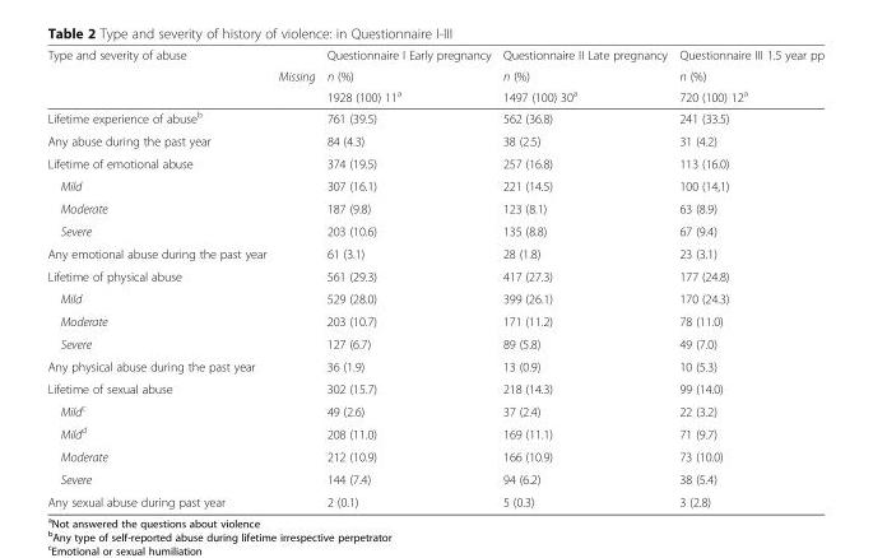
<table><thead><tr><td rowspan="3">Type and severity of abuse</td><td rowspan="3">Missing</td><td rowspan="3">Questionnaire I Early pregnancy n (%) 1928 (100) 11<sup>a</sup></td><td rowspan="3">Questionnaire II Late pregnancy n (%) 1497 (100) 30<sup>a</sup></td><td rowspan="3">Questionnaire III 1.5 year pp n (%) 720 (100) 12<sup>a</sup></td></tr><tr></tr><tr></tr></thead><tbody><tr><td>Lifetime experience of abuse<sup>b</sup></td><td></td><td>761 (39.5)</td><td>562 (36.8)</td><td>241 (33.5)</td></tr><tr><td>Any abuse during the past year</td><td></td><td>84 (4.3)</td><td>38 (2.5)</td><td>31 (4.2)</td></tr><tr><td>Lifetime of emotional abuse</td><td></td><td>374 (19.5)</td><td>257 (16.8)</td><td>113 (16.0)</td></tr><tr><td>Mild</td><td></td><td>307 (16.1)</td><td>221 (14.5)</td><td>100 (14,1)</td></tr><tr><td>Moderate</td><td></td><td>187 (9.8)</td><td>123 (8.1)</td><td>63 (8.9)</td></tr><tr><td>Severe</td><td></td><td>203 (10.6)</td><td>135 (8.8)</td><td>67 (9.4)</td></tr><tr><td>Any emotional abuse during the past year</td><td></td><td>61 (3.1)</td><td>28 (1.8)</td><td>23 (3.1)</td></tr><tr><td>Lifetime of physical abuse</td><td></td><td>561 (29.3)</td><td>417 (27.3)</td><td>177 (24.8)</td></tr><tr><td>Mild</td><td></td><td>529 (28.0)</td><td>399 (26.1)</td><td>170 (24.3)</td></tr><tr><td>Moderate</td><td></td><td>203 (10.7)</td><td>171 (11.2)</td><td>78 (11.0)</td></tr><tr><td>Severe</td><td></td><td>127 (6.7)</td><td>89 (5.8)</td><td>49 (7.0)</td></tr><tr><td>Any physical abuse during the past year</td><td></td><td>36 (1.9)</td><td>13 (0.9)</td><td>10 (5.3)</td></tr><tr><td>Lifetime of sexual abuse</td><td></td><td>302 (15.7)</td><td>218 (14.3)</td><td>99 (14.0)</td></tr><tr><td>Mild<sup>c</sup></td><td></td><td>49 (2.6)</td><td>37 (2.4)</td><td>22 (3.2)</td></tr><tr><td>Mild<sup>d</sup></td><td></td><td>208 (11.0)</td><td>169 (11.1)</td><td>71 (9.7)</td></tr><tr><td>Moderate</td><td></td><td>212 (10.9)</td><td>166 (10.9)</td><td>73 (10.0)</td></tr><tr><td>Severe</td><td></td><td>144 (7.4)</td><td>94 (6.2)</td><td>38 (5.4)</td></tr><tr><td>Any sexual abuse during past year</td><td></td><td>2 (0.1)</td><td>5 (0.3)</td><td>3 (2.8)</td></tr></tbody></table>